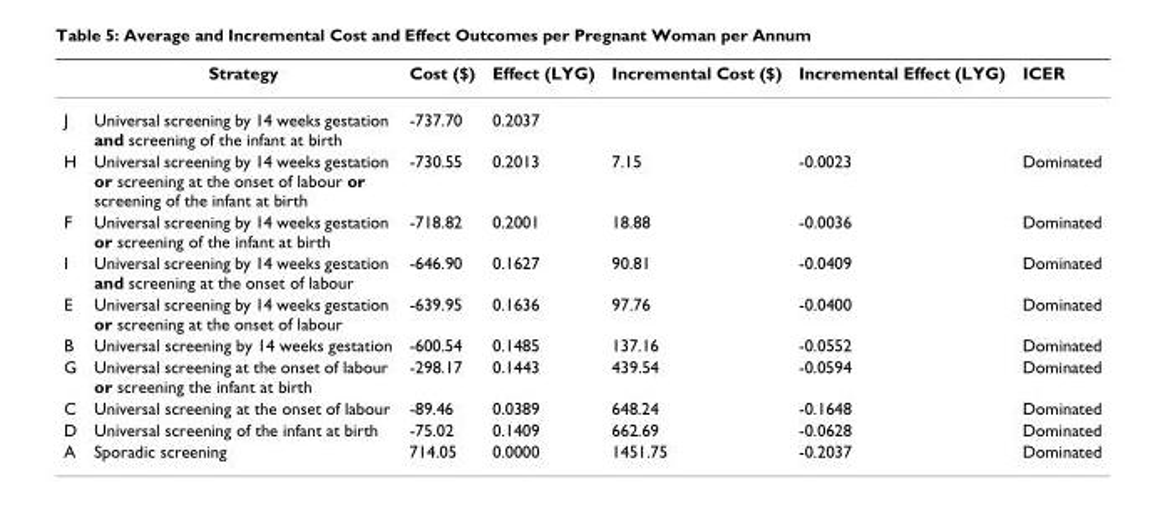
<table><thead><tr><td></td><td>Strategy</td><td>Cost ($)</td><td>Effect (LYG)</td><td>Incremental Cost ($)</td><td>Incremental Effect (LYG)</td><td>ICER</td></tr></thead><tbody><tr><td>J</td><td>Universal screening by 14 weeks gestation and screening of the infant at birth</td><td>-737.70</td><td>0.2037</td><td></td><td></td><td></td></tr><tr><td>H</td><td>Universal screening by 14 weeks gestation or screening at the onset of labour or screening of the infant at birth</td><td>-730.55</td><td>0.2013</td><td>7.15</td><td>-0.0023</td><td>Dominated</td></tr><tr><td>F</td><td>Universal screening by 14 weeks gestation or screening of the infant at birth</td><td>-718.82</td><td>0.2001</td><td>18.88</td><td>-0.0036</td><td>Dominated</td></tr><tr><td>I</td><td>Universal screening by 14 weeks gestation and screening at the onset of labour</td><td>-646.90</td><td>0.1627</td><td>90.81</td><td>-0.0409</td><td>Dominated</td></tr><tr><td>E</td><td>Universal screening by 14 weeks gestation or screening at the onset of labour</td><td>-639.95</td><td>0.1636</td><td>97.76</td><td>-0.0400</td><td>Dominated</td></tr><tr><td>B</td><td>Universal screening by 14 weeks gestation</td><td>-600.54</td><td>0.1485</td><td>137.16</td><td>-0.0552</td><td>Dominated</td></tr><tr><td>G</td><td>Universal screening at the onset of labour or screening the infant at birth</td><td>-298.17</td><td>0.1443</td><td>439.54</td><td>-0.0594</td><td>Dominated</td></tr><tr><td>C</td><td>Universal screening at the onset of labour</td><td>-89.46</td><td>0.0389</td><td>648.24</td><td>-0.1648</td><td>Dominated</td></tr><tr><td>D</td><td>Universal screening of the infant at birth</td><td>-75.02</td><td>0.1409</td><td>662.69</td><td>-0.0628</td><td>Dominated</td></tr><tr><td>A</td><td>Sporadic screening</td><td>714.05</td><td>0.0000</td><td>1451.75</td><td>-0.2037</td><td>Dominated</td></tr></tbody></table>